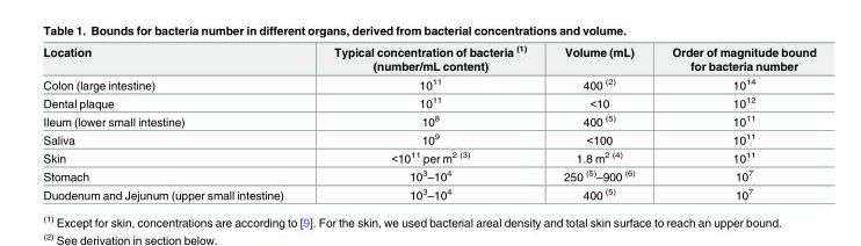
<table><thead><tr><td>Location</td><td>Typical concentration of bacteria <sup>(1)</sup> (number/mL content)</td><td>Volume (mL)</td><td>Order of magnitude bound for bacteria number</td></tr></thead><tbody><tr><td>Colon (large intestine)</td><td>10<sup>11</sup></td><td>400 <sup>(2)</sup></td><td>10<sup>14</sup></td></tr><tr><td>Dental plaque</td><td>10<sup>11</sup></td><td>&lt;10</td><td>10<sup>12</sup></td></tr><tr><td>Ileum (lower small intestine)</td><td>10<sup>8</sup></td><td>400 <sup>(5)</sup></td><td>10<sup>11</sup></td></tr><tr><td>Saliva</td><td>10<sup>9</sup></td><td>&lt;100</td><td>10<sup>11</sup></td></tr><tr><td>Skin</td><td>&lt;10<sup>11</sup> per m<sup>2 (3)</sup></td><td>1.8 m<sup>2 (4)</sup></td><td>10<sup>11</sup></td></tr><tr><td>Stomach</td><td>10<sup>3</sup>–10<sup>4</sup></td><td>250 <sup>(5)</sup>–900 <sup>(6)</sup></td><td>10<sup>7</sup></td></tr><tr><td>Duodenum and Jejunum (upper small intestine)</td><td>10<sup>3</sup>–10<sup>4</sup></td><td>400 <sup>(5)</sup></td><td>10<sup>7</sup></td></tr></tbody></table>